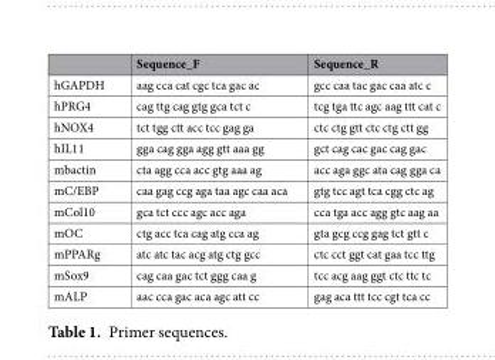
<table><thead><tr><td></td><td>Sequence_F</td><td>Sequence_R</td></tr></thead><tbody><tr><td>hGAPDH</td><td>aag cca cat cgc tca gac ac</td><td>gcc caa tac gac caa atc c</td></tr><tr><td>hPRG4</td><td>cag ttg cag gtg gca tct c</td><td>tcg tga ttc agc aag ttt cat c</td></tr><tr><td>hNOX4</td><td>tct tgg ctt acc tcc gag ga</td><td>ctc ctg gtt ctc ctg ctt gg</td></tr><tr><td>hIL11</td><td>gga cag gga agg gtt aaa gg</td><td>gct cag cac gac cag gac</td></tr><tr><td>mbactin</td><td>cta agg cca acc gtg aaa ag</td><td>acc aga ggc ata cag gga ca</td></tr><tr><td>mC/EBP</td><td>caa gag ccg aga taa agc caa aca</td><td>gtg tcc agt tca cgg ctc ag</td></tr><tr><td>mCol10</td><td>gca tct ccc agc acc aga</td><td>cca tga acc agg gtc aag aa</td></tr><tr><td>mOC</td><td>ctg acc tca cag atg cca ag</td><td>gta gcg ccg gag tct gtt c</td></tr><tr><td>mPPARg</td><td>atc atc tac acg atg ctg gcc</td><td>ctc cct ggt cat gaa tcc ttg</td></tr><tr><td>mSox9</td><td>cag caa gac tct ggg caa g</td><td>tcc acg aag ggt ctc ttc tc</td></tr><tr><td>mALP</td><td>aac cca gac aca agc att cc</td><td>gag aca ttt tcc cgt tca cc</td></tr></tbody></table>